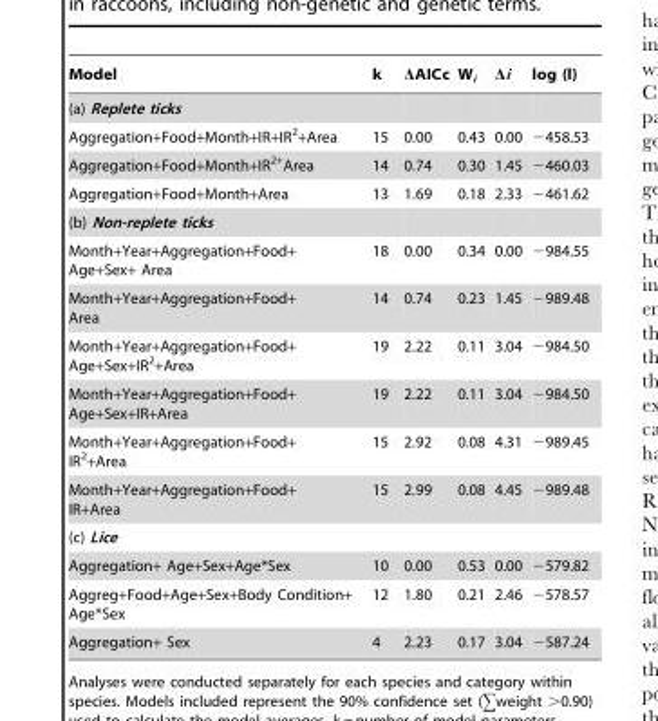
<table><thead><tr><td>Model</td><td>k</td><td>ΔAICc</td><td>W<sub>i</sub></td><td>Δi</td><td>log (l)</td></tr></thead><tbody><tr><td colspan="6">(a) Replete ticks</td></tr><tr><td>Aggregation+Food+Month+IR+IR<sup>2</sup>+Area</td><td>15</td><td>0.00</td><td>0.43</td><td>0.00</td><td>−458.53</td></tr><tr><td>Aggregation+Food+Month+IR<sup>2+</sup>Area</td><td>14</td><td>0.74</td><td>0.30</td><td>1.45</td><td>−460.03</td></tr><tr><td>Aggregation+Food+Month+Area</td><td>13</td><td>1.69</td><td>0.18</td><td>2.33</td><td>−461.62</td></tr><tr><td colspan="6">(b) Non-replete ticks</td></tr><tr><td>Month+Year+Aggregation+Food+ Age+Sex+ Area</td><td>18</td><td>0.00</td><td>0.34</td><td>0.00</td><td>−984.55</td></tr><tr><td>Month+Year+Aggregation+Food+ Area</td><td>14</td><td>0.74</td><td>0.23</td><td>1.45</td><td>−989.48</td></tr><tr><td>Month+Year+Aggregation+Food+ Age+Sex+IR<sup>2</sup>+Area</td><td>19</td><td>2.22</td><td>0.11</td><td>3.04</td><td>−984.50</td></tr><tr><td>Month+Year+Aggregation+Food+ Age+Sex+IR+Area</td><td>19</td><td>2.22</td><td>0.11</td><td>3.04</td><td>−984.50</td></tr><tr><td>Month+Year+Aggregation+Food+ IR<sup>2</sup>+Area</td><td>15</td><td>2.92</td><td>0.08</td><td>4.31</td><td>−989.45</td></tr><tr><td>Month+Year+Aggregation+Food+ IR+Area</td><td>15</td><td>2.99</td><td>0.08</td><td>4.45</td><td>−989.48</td></tr><tr><td colspan="6">(c) Lice</td></tr><tr><td>Aggregation+ Age+Sex+Age*Sex</td><td>10</td><td>0.00</td><td>0.53</td><td>0.00</td><td>−579.82</td></tr><tr><td>Aggreg+Food+Age+Sex+Body Condition+ Age*Sex</td><td>12</td><td>1.80</td><td>0.21</td><td>2.46</td><td>−578.57</td></tr><tr><td>Aggregation+ Sex</td><td>4</td><td>2.23</td><td>0.17</td><td>3.04</td><td>−587.24</td></tr></tbody></table>